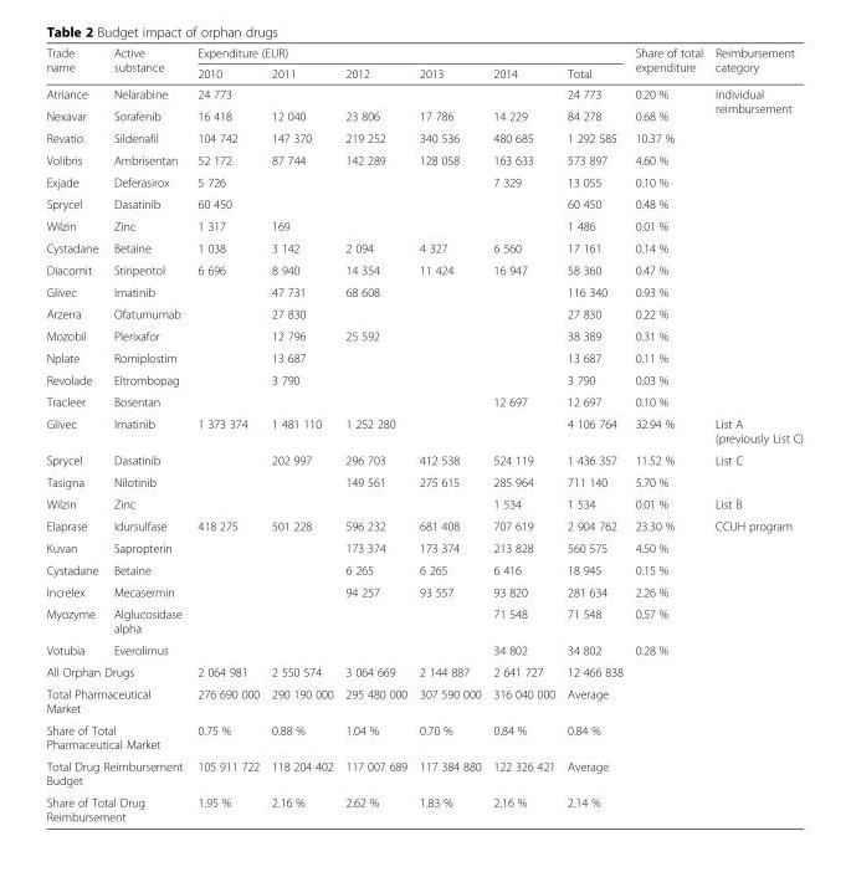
<table><thead><tr><td rowspan="2">Trade name</td><td rowspan="2">Active substance</td><td colspan="6">Expenditure (EUR)</td><td rowspan="2">Share of total expenditure</td><td rowspan="2">Reimbursement category</td></tr><tr><td>2010</td><td>2011</td><td>2012</td><td>2013</td><td>2014</td><td>Total</td></tr></thead><tbody><tr><td>Atriance</td><td>Nelarabine</td><td>24 773</td><td></td><td></td><td></td><td></td><td>24 773</td><td>0.20 %</td><td rowspan="15">Individual reimbursement</td></tr><tr><td>Nexavar</td><td>Sorafenib</td><td>16 418</td><td>12 040</td><td>23 806</td><td>17 786</td><td>14 229</td><td>84 278</td><td>0.68 %</td></tr><tr><td>Revatio</td><td>Sildenafil</td><td>104 742</td><td>147 370</td><td>219 252</td><td>340 536</td><td>480 685</td><td>1 292 585</td><td>10.37 %</td></tr><tr><td>Volibris</td><td>Ambrisentan</td><td>52 172</td><td>87 744</td><td>142 289</td><td>128 058</td><td>163 633</td><td>573 897</td><td>4.60 %</td></tr><tr><td>Exjade</td><td>Deferasirox</td><td>5 726</td><td></td><td></td><td></td><td>7 329</td><td>13 055</td><td>0.10 %</td></tr><tr><td>Sprycel</td><td>Dasatinib</td><td>60 450</td><td></td><td></td><td></td><td></td><td>60 450</td><td>0.48 %</td></tr><tr><td>Wilzin</td><td>Zinc</td><td>1 317</td><td>169</td><td></td><td></td><td></td><td>1 486</td><td>0.01 %</td></tr><tr><td>Cystadane</td><td>Betaine</td><td>1 038</td><td>3 142</td><td>2 094</td><td>4 327</td><td>6 560</td><td>17 161</td><td>0.14 %</td></tr><tr><td>Diacomit</td><td>Stiripentol</td><td>6 696</td><td>8 940</td><td>14 354</td><td>11 424</td><td>16 947</td><td>58 360</td><td>0.47 %</td></tr><tr><td>Glivec</td><td>Imatinib</td><td></td><td>47 731</td><td>68 608</td><td></td><td></td><td>116 340</td><td>0.93 %</td></tr><tr><td>Arzerra</td><td>Ofatumumab</td><td></td><td>27 830</td><td></td><td></td><td></td><td>27 830</td><td>0.22 %</td></tr><tr><td>Mozobil</td><td>Plerixafor</td><td></td><td>12 796</td><td>25 592</td><td></td><td></td><td>38 389</td><td>0.31 %</td></tr><tr><td>Nplate</td><td>Romiplostim</td><td></td><td>13 687</td><td></td><td></td><td></td><td>13 687</td><td>0.11 %</td></tr><tr><td>Revolade</td><td>Eltrombopag</td><td></td><td>3 790</td><td></td><td></td><td></td><td>3 790</td><td>0.03 %</td></tr><tr><td>Tracleer</td><td>Bosentan</td><td></td><td></td><td></td><td></td><td>12 697</td><td>12 697</td><td>0.10 %</td></tr><tr><td>Glivec</td><td>Imatinib</td><td>1 373 374</td><td>1 481 110</td><td>1 252 280</td><td></td><td></td><td>4 106 764</td><td>32.94 %</td><td>List A (previously List C)</td></tr><tr><td>Sprycel</td><td>Dasatinib</td><td></td><td>202 997</td><td>296 703</td><td>412 538</td><td>524 119</td><td>1 436 357</td><td>11.52 %</td><td rowspan="2">List C</td></tr><tr><td>Tasigna</td><td>Nilotinib</td><td></td><td></td><td>149 561</td><td>275 615</td><td>285 964</td><td>711 140</td><td>5.70 %</td></tr><tr><td>Wilzin</td><td>Zinc</td><td></td><td></td><td></td><td></td><td>1 534</td><td>1 534</td><td>0.01 %</td><td>List B</td></tr><tr><td>Elaprase</td><td>Idursulfase</td><td>418 275</td><td>501 228</td><td>596 232</td><td>681 408</td><td>707 619</td><td>2 904 762</td><td>23.30 %</td><td rowspan="6">CCUH program</td></tr><tr><td>Kuvan</td><td>Sapropterin</td><td></td><td></td><td>173 374</td><td>173 374</td><td>213 828</td><td>560 575</td><td>4.50 %</td></tr><tr><td>Cystadane</td><td>Betaine</td><td></td><td></td><td>6 265</td><td>6 265</td><td>6 416</td><td>18 945</td><td>0.15 %</td></tr><tr><td>Increlex</td><td>Mecasermin</td><td></td><td></td><td>94 257</td><td>93 557</td><td>93 820</td><td>281 634</td><td>2.26 %</td></tr><tr><td>Myozyme</td><td>Alglucosidase alpha</td><td></td><td></td><td></td><td></td><td>71 548</td><td>71 548</td><td>0.57 %</td></tr><tr><td>Votubia</td><td>Everolimus</td><td></td><td></td><td></td><td></td><td>34 802</td><td>34 802</td><td>0.28 %</td></tr><tr><td colspan="2">All Orphan Drugs</td><td>2 064 981</td><td>2 550 574</td><td>3 064 669</td><td>2 144 887</td><td>2 641 727</td><td>12 466 838</td><td></td><td></td></tr><tr><td colspan="2">Total Pharmaceutical Market</td><td>276 690 000</td><td>290 190 000</td><td>295 480 000</td><td>307 590 000</td><td>316 040 000</td><td>Average</td><td></td><td></td></tr><tr><td colspan="2">Share of Total Pharmaceutical Market</td><td>0.75 %</td><td>0.88 %</td><td>1.04 %</td><td>0.70 %</td><td>0.84 %</td><td>0.84 %</td><td></td><td></td></tr><tr><td colspan="2">Total Drug Reimbursement Budget</td><td>105 911 722</td><td>118 204 402</td><td>117 007 689</td><td>117 384 880</td><td>122 326 421</td><td>Average</td><td></td><td></td></tr><tr><td colspan="2">Share of Total Drug Reimbursement</td><td>1.95 %</td><td>2.16 %</td><td>2.62 %</td><td>1.83 %</td><td>2.16 %</td><td>2.14 %</td><td></td><td></td></tr></tbody></table>